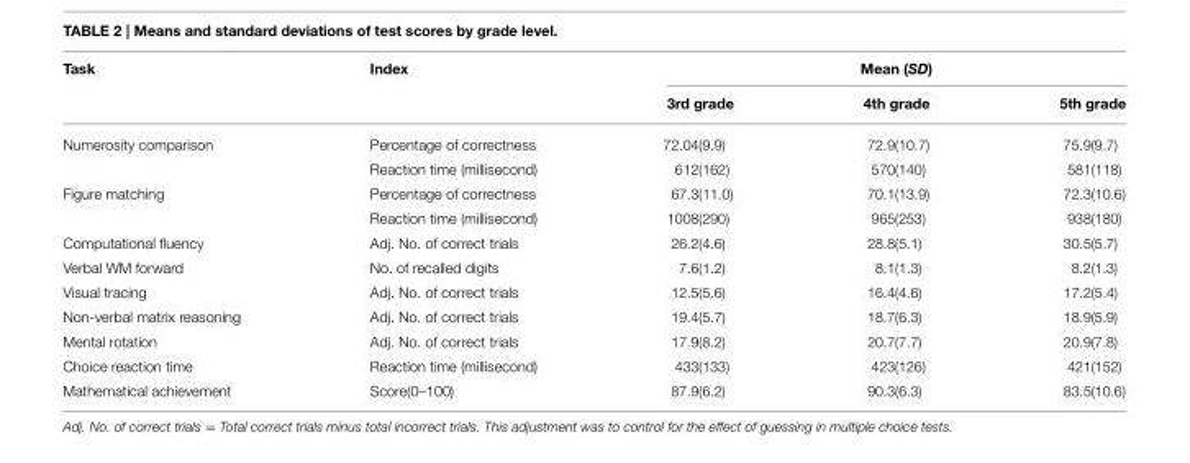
<table><thead><tr><td rowspan="2">Task</td><td rowspan="2">Index</td><td colspan="3">Mean (SD)</td></tr><tr><td>3rd grade</td><td>4th grade</td><td>5th grade</td></tr></thead><tbody><tr><td rowspan="2">Numerosity comparison</td><td>Percentage of correctness</td><td>72.04(9.9)</td><td>72.9(10.7)</td><td>75.9(9.7)</td></tr><tr><td>Reaction time (millisecond)</td><td>612(162)</td><td>570(140)</td><td>581(118)</td></tr><tr><td rowspan="2">Figure matching</td><td>Percentage of correctness</td><td>67.3(11.0)</td><td>70.1(13.9)</td><td>72.3(10.6)</td></tr><tr><td>Reaction time (millisecond)</td><td>1008(290)</td><td>965(253)</td><td>938(180)</td></tr><tr><td>Computational fluency</td><td>Adj. No. of correct trials</td><td>26.2(4.6)</td><td>28.8(5.1)</td><td>30.5(5.7)</td></tr><tr><td>Verbal WM forward</td><td>No. of recalled digits</td><td>7.6(1.2)</td><td>8.1(1.3)</td><td>8.2(1.3)</td></tr><tr><td>Visual tracing</td><td>Adj. No. of correct trials</td><td>12.5(5.6)</td><td>16.4(4.6)</td><td>17.2(5.4)</td></tr><tr><td>Non-verbal matrix reasoning</td><td>Adj. No. of correct trials</td><td>19.4(5.7)</td><td>18.7(6.3)</td><td>18.9(5.9)</td></tr><tr><td>Mental rotation</td><td>Adj. No. of correct trials</td><td>17.9(8.2)</td><td>20.7(7.7)</td><td>20.9(7.8)</td></tr><tr><td>Choice reaction time</td><td>Reaction time (millisecond)</td><td>433(133)</td><td>423(126)</td><td>421(152)</td></tr><tr><td>Mathematical achievement</td><td>Score(0–100)</td><td>87.9(6.2)</td><td>90.3(6.3)</td><td>83.5(10.6)</td></tr></tbody></table>